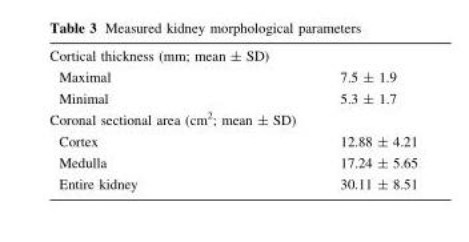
<table><tbody><tr><td colspan="2">Cortical thickness (mm; mean ± SD)</td></tr><tr><td>Maximal</td><td>7.5 ± 1.9</td></tr><tr><td>Minimal</td><td>5.3 ± 1.7</td></tr><tr><td colspan="2">Coronal sectional area (cm<sup>2</sup>; mean ± SD)</td></tr><tr><td>Cortex</td><td>12.88 ± 4.21</td></tr><tr><td>Medulla</td><td>17.24 ± 5.65</td></tr><tr><td>Entire kidney</td><td>30.11 ± 8.51</td></tr></tbody></table>